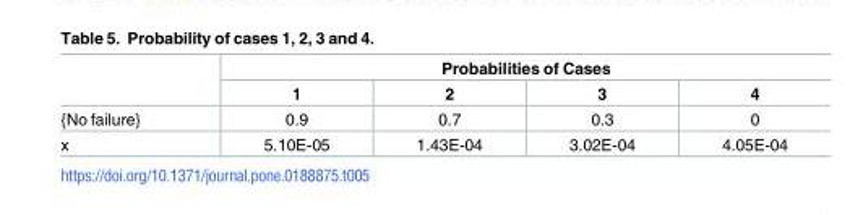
<table><thead><tr><td rowspan="2"></td><td colspan="4">Probabilities of Cases</td></tr><tr><td>1</td><td>2</td><td>3</td><td>4</td></tr></thead><tbody><tr><td>{No failure}</td><td>0.9</td><td>0.7</td><td>0.3</td><td>0</td></tr><tr><td>x</td><td>5.10E-05</td><td>1.43E-04</td><td>3.02E-04</td><td>4.05E-04</td></tr></tbody></table>